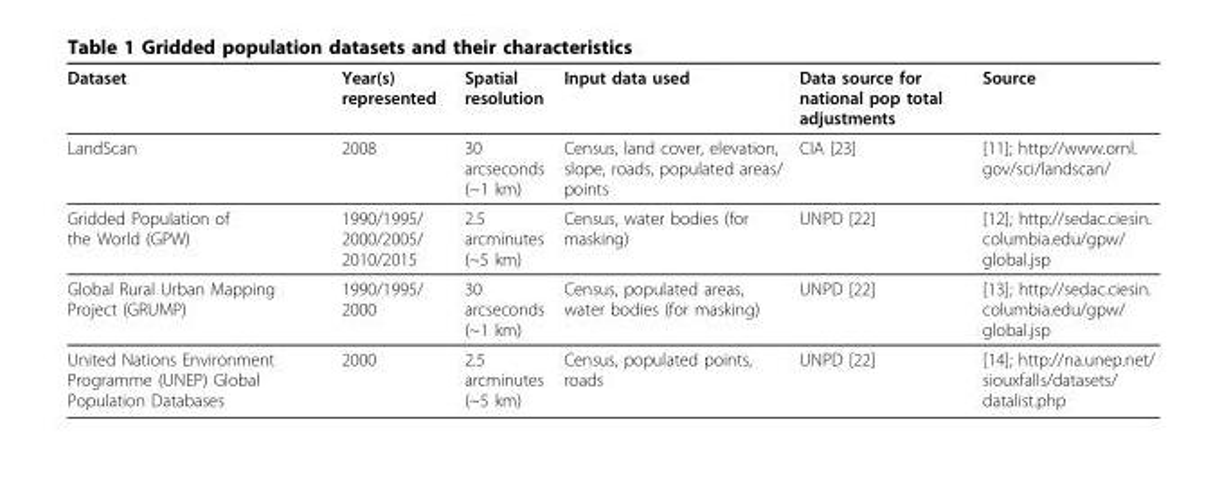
<table><thead><tr><td>Dataset</td><td>Year(s) represented</td><td>Spatial resolution</td><td>Input data used</td><td>Data source for national pop total adjustments</td><td>Source</td></tr></thead><tbody><tr><td>LandScan</td><td>2008</td><td>30 arcseconds (~1 km)</td><td>Census, land cover, elevation, slope, roads, populated areas/ points</td><td>CIA [23]</td><td>[11]; http://www.ornl. gov/sci/landscan/</td></tr><tr><td>Gridded Population of the World (GPW)</td><td>1990/1995/ 2000/2005/ 2010/2015</td><td>2.5 arcminutes (~5 km)</td><td>Census, water bodies (for masking)</td><td>UNPD [22]</td><td>[12]; http://sedac.ciesin. columbia.edu/gpw/ global.jsp</td></tr><tr><td>Global Rural Urban Mapping Project (GRUMP)</td><td>1990/1995/ 2000</td><td>30 arcseconds (~1 km)</td><td>Census, populated areas, water bodies (for masking)</td><td>UNPD [22]</td><td>[13]; http://sedac.ciesin. columbia.edu/gpw/ global.jsp</td></tr><tr><td>United Nations Environment Programme (UNEP) Global Population Databases</td><td>2000</td><td>2.5 arcminutes (~5 km)</td><td>Census, populated points, roads</td><td>UNPD [22]</td><td>[14]; http://na.unep.net/ siouxfalls/datasets/ datalist.php</td></tr></tbody></table>